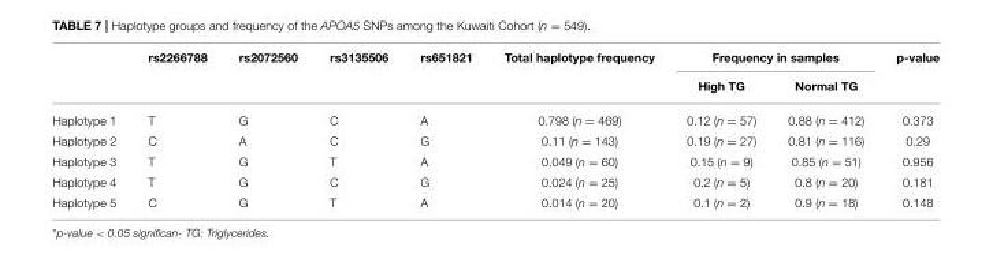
<table><thead><tr><td rowspan="2"></td><td rowspan="2">rs2266788</td><td rowspan="2">rs2072560</td><td rowspan="2">rs3135506</td><td rowspan="2">rs651821</td><td rowspan="2">Total haplotype frequency</td><td colspan="2">Frequency in samples</td><td rowspan="2">p-value</td></tr><tr><td>High TG</td><td>Normal TG</td></tr></thead><tbody><tr><td>Haplotype 1</td><td>T</td><td>G</td><td>C</td><td>A</td><td>0.798 (n = 469)</td><td>0.12 (n = 57)</td><td>0.88 (n = 412)</td><td>0.373</td></tr><tr><td>Haplotype 2</td><td>C</td><td>A</td><td>C</td><td>G</td><td>0.11 (n = 143)</td><td>0.19 (n = 27)</td><td>0.81 (n = 116)</td><td>0.29</td></tr><tr><td>Haplotype 3</td><td>T</td><td>G</td><td>T</td><td>A</td><td>0.049 (n = 60)</td><td>0.15 (n = 9)</td><td>0.85 (n = 51)</td><td>0.956</td></tr><tr><td>Haplotype 4</td><td>T</td><td>G</td><td>C</td><td>G</td><td>0.024 (n = 25)</td><td>0.2 (n = 5)</td><td>0.8 (n = 20)</td><td>0.181</td></tr><tr><td>Haplotype 5</td><td>C</td><td>G</td><td>T</td><td>A</td><td>0.014 (n = 20)</td><td>0.1 (n = 2)</td><td>0.9 (n = 18)</td><td>0.148</td></tr></tbody></table>